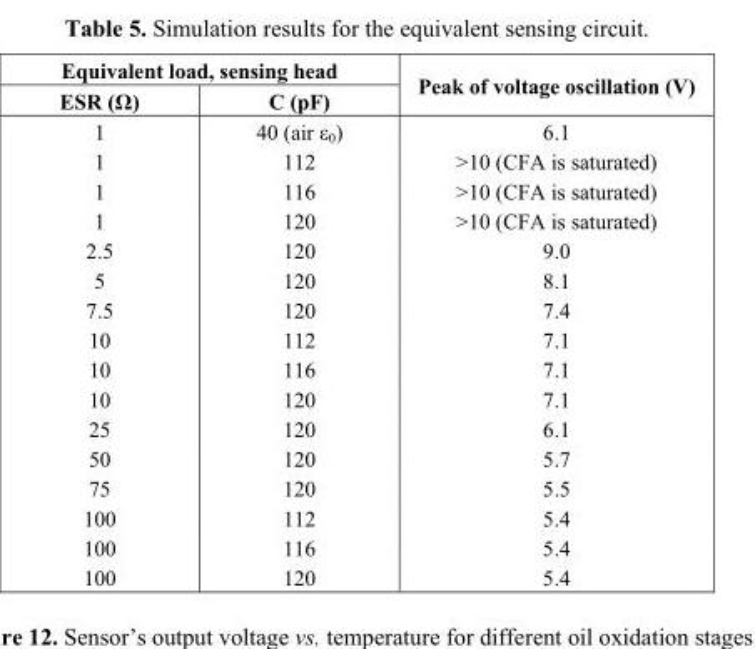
<table><thead><tr><td colspan="2">Equivalent load, sensing head</td><td rowspan="2">Peak of voltage oscillation (V)</td></tr><tr><td>ESR (Ω)</td><td>C (pF)</td></tr></thead><tbody><tr><td>1</td><td>40 (air ε0)</td><td>6.1</td></tr><tr><td>1</td><td>112</td><td>&gt;10 (CFA is saturated)</td></tr><tr><td>1</td><td>116</td><td>&gt;10 (CFA is saturated)</td></tr><tr><td>1</td><td>120</td><td>&gt;10 (CFA is saturated)</td></tr><tr><td>2.5</td><td>120</td><td>9.0</td></tr><tr><td>5</td><td>120</td><td>8.1</td></tr><tr><td>7.5</td><td>120</td><td>7.4</td></tr><tr><td>10</td><td>112</td><td>7.1</td></tr><tr><td>10</td><td>116</td><td>7.1</td></tr><tr><td>10</td><td>120</td><td>7.1</td></tr><tr><td>25</td><td>120</td><td>6.1</td></tr><tr><td>50</td><td>120</td><td>5.7</td></tr><tr><td>75</td><td>120</td><td>5.5</td></tr><tr><td>100</td><td>112</td><td>5.4</td></tr><tr><td>100</td><td>116</td><td>5.4</td></tr><tr><td>100</td><td>120</td><td>5.4</td></tr></tbody></table>